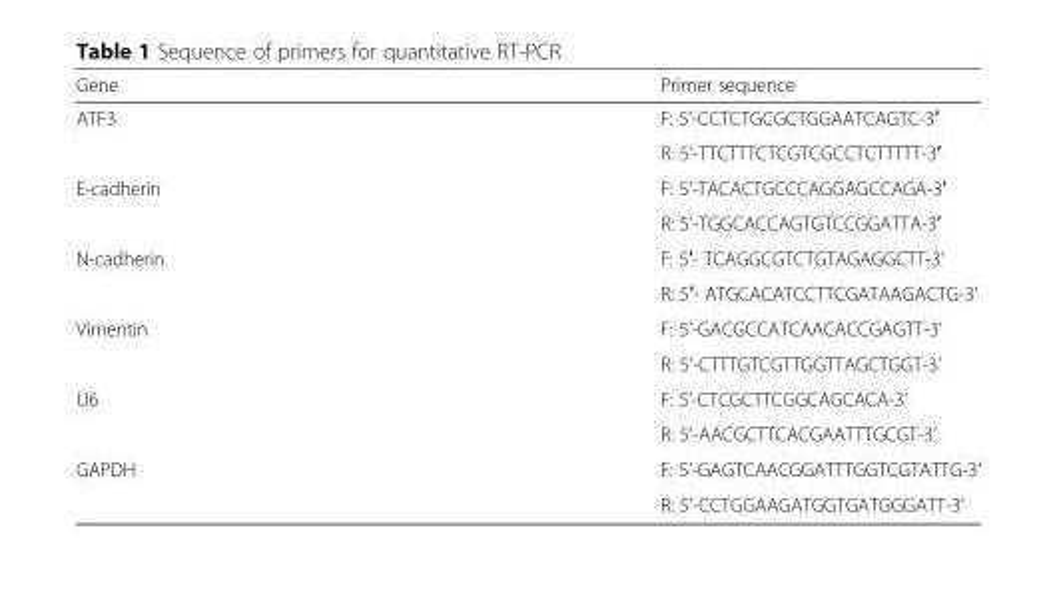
<table><thead><tr><td>Gene</td><td>Primer sequence</td></tr></thead><tbody><tr><td rowspan="2">ATF3</td><td>F: 5’-CCTCTGCGCTGGAATCAGTC-3′</td></tr><tr><td>R: 5’-TTCTTTCTCGTCGCCTCTTTTT-3′</td></tr><tr><td rowspan="2">E-cadherin</td><td>F: 5’-TACACTGCCCAGGAGCCAGA-3′</td></tr><tr><td>R: 5’-TGGCACCAGTGTCCGGATTA-3′</td></tr><tr><td rowspan="2">N-cadherin</td><td>F: 5′- TCAGGCGTCTGTAGAGGCTT-3’</td></tr><tr><td>R: 5′- ATGCACATCCTTCGATAAGACTG-3’</td></tr><tr><td rowspan="2">Vimentin</td><td>F: 5’-GACGCCATCAACACCGAGTT-3’</td></tr><tr><td>R: 5’-CTTTGTCGTTGGTTAGCTGGT-3’</td></tr><tr><td rowspan="2">U6</td><td>F: 5’-CTCGCTTCGGCAGCACA-3’</td></tr><tr><td>R: 5’-AACGCTTCACGAATTTGCGT-3’</td></tr><tr><td rowspan="2">GAPDH</td><td>F: 5’-GAGTCAACGGATTTGGTCGTATTG-3’</td></tr><tr><td>R: 5’-CCTGGAAGATGGTGATGGGATT-3’</td></tr></tbody></table>